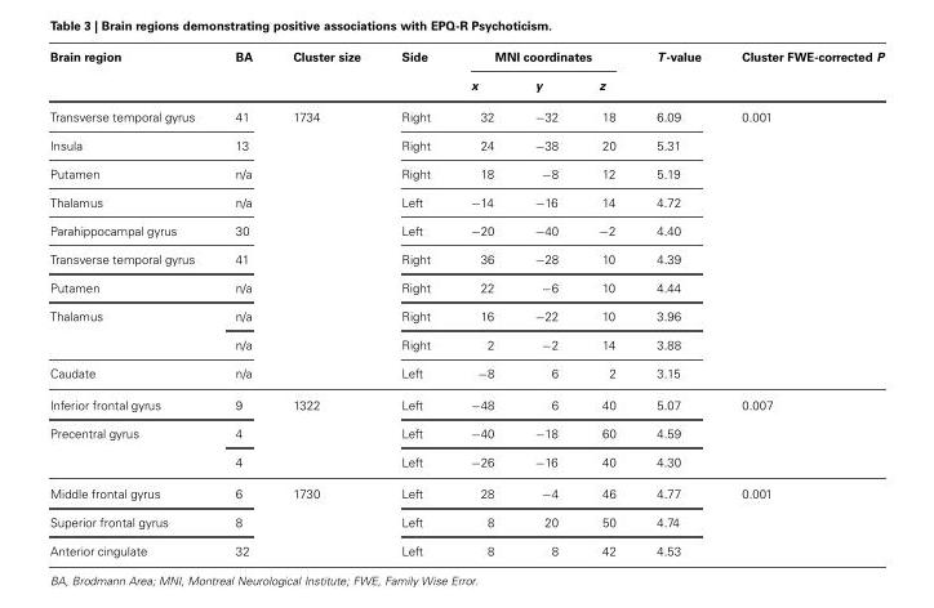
<table><thead><tr><td rowspan="2">Brain region</td><td rowspan="2">BA</td><td rowspan="2">Cluster size</td><td rowspan="2">Side</td><td colspan="3">MNI coordinates</td><td rowspan="2">T-value</td><td rowspan="2">Cluster FWE-corrected P</td></tr><tr><td>x</td><td>y</td><td>z</td></tr></thead><tbody><tr><td>Transverse temporal gyrus</td><td>41</td><td>1734</td><td>Right</td><td>32</td><td>−32</td><td>18</td><td>6.09</td><td>0.001</td></tr><tr><td>Insula</td><td>13</td><td></td><td>Right</td><td>24</td><td>−38</td><td>20</td><td>5.31</td><td></td></tr><tr><td>Putamen</td><td>n/a</td><td></td><td>Right</td><td>18</td><td>−8</td><td>12</td><td>5.19</td><td></td></tr><tr><td>Thalamus</td><td>n/a</td><td></td><td>Left</td><td>−14</td><td>−16</td><td>14</td><td>4.72</td><td></td></tr><tr><td>Parahippocampal gyrus</td><td>30</td><td></td><td>Left</td><td>−20</td><td>−40</td><td>−2</td><td>4.40</td><td></td></tr><tr><td>Transverse temporal gyrus</td><td>41</td><td></td><td>Right</td><td>36</td><td>−28</td><td>10</td><td>4.39</td><td></td></tr><tr><td>Putamen</td><td>n/a</td><td></td><td>Right</td><td>22</td><td>−6</td><td>10</td><td>4.44</td><td></td></tr><tr><td rowspan="2">Thalamus</td><td>n/a</td><td></td><td>Right</td><td>16</td><td>−22</td><td>10</td><td>3.96</td><td></td></tr><tr><td>n/a</td><td></td><td>Right</td><td>2</td><td>−2</td><td>14</td><td>3.88</td><td></td></tr><tr><td>Caudate</td><td>n/a</td><td></td><td>Left</td><td>−8</td><td>6</td><td>2</td><td>3.15</td><td></td></tr><tr><td>Inferior frontal gyrus</td><td>9</td><td>1322</td><td>Left</td><td>−48</td><td>6</td><td>40</td><td>5.07</td><td>0.007</td></tr><tr><td rowspan="2">Precentral gyrus</td><td>4</td><td></td><td>Left</td><td>−40</td><td>−18</td><td>60</td><td>4.59</td><td></td></tr><tr><td>4</td><td></td><td>Left</td><td>−26</td><td>−16</td><td>40</td><td>4.30</td><td></td></tr><tr><td>Middle frontal gyrus</td><td>6</td><td>1730</td><td>Left</td><td>28</td><td>−4</td><td>46</td><td>4.77</td><td>0.001</td></tr><tr><td>Superior frontal gyrus</td><td>8</td><td></td><td>Left</td><td>8</td><td>20</td><td>50</td><td>4.74</td><td></td></tr><tr><td>Anterior cingulate</td><td>32</td><td></td><td>Left</td><td>8</td><td>8</td><td>42</td><td>4.53</td><td></td></tr></tbody></table>